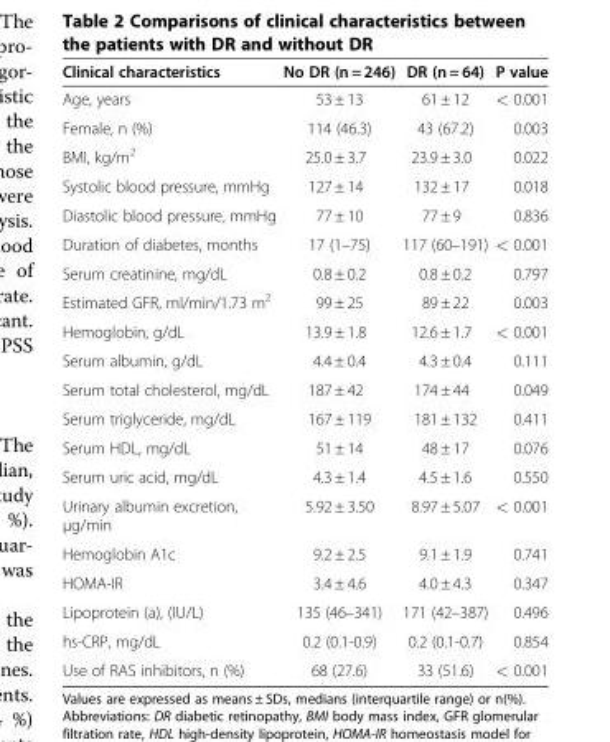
<table><thead><tr><td>Clinical characteristics</td><td>No DR (n = 246)</td><td>DR (n = 64)</td><td>P value</td></tr></thead><tbody><tr><td>Age, years</td><td>53 ± 13</td><td>61 ± 12</td><td>&lt; 0.001</td></tr><tr><td>Female, n (%)</td><td>114 (46.3)</td><td>43 (67.2)</td><td>0.003</td></tr><tr><td>BMI, kg/m<sup>2</sup></td><td>25.0 ± 3.7</td><td>23.9 ± 3.0</td><td>0.022</td></tr><tr><td>Systolic blood pressure, mmHg</td><td>127 ± 14</td><td>132 ± 17</td><td>0.018</td></tr><tr><td>Diastolic blood pressure, mmHg</td><td>77 ± 10</td><td>77 ± 9</td><td>0.836</td></tr><tr><td>Duration of diabetes, months</td><td>17 (1–75)</td><td>117 (60–191)</td><td>&lt; 0.001</td></tr><tr><td>Serum creatinine, mg/dL</td><td>0.8 ± 0.2</td><td>0.8 ± 0.2</td><td>0.797</td></tr><tr><td>Estimated GFR, ml/min/1.73 m<sup>2</sup></td><td>99 ± 25</td><td>89 ± 22</td><td>0.003</td></tr><tr><td>Hemoglobin, g/dL</td><td>13.9 ± 1.8</td><td>12.6 ± 1.7</td><td>&lt; 0.001</td></tr><tr><td>Serum albumin, g/dL</td><td>4.4 ± 0.4</td><td>4.3 ± 0.4</td><td>0.111</td></tr><tr><td>Serum total cholesterol, mg/dL</td><td>187 ± 42</td><td>174 ± 44</td><td>0.049</td></tr><tr><td>Serum triglyceride, mg/dL</td><td>167 ± 119</td><td>181 ± 132</td><td>0.411</td></tr><tr><td>Serum HDL, mg/dL</td><td>51 ± 14</td><td>48 ± 17</td><td>0.076</td></tr><tr><td>Serum uric acid, mg/dL</td><td>4.3 ± 1.4</td><td>4.5 ± 1.6</td><td>0.550</td></tr><tr><td>Urinary albumin excretion, μg/min</td><td>5.92 ± 3.50</td><td>8.97 ± 5.07</td><td>&lt; 0.001</td></tr><tr><td>Hemoglobin A1c</td><td>9.2 ± 2.5</td><td>9.1 ± 1.9</td><td>0.741</td></tr><tr><td>HOMA-IR</td><td>3.4 ± 4.6</td><td>4.0 ± 4.3</td><td>0.347</td></tr><tr><td>Lipoprotein (a), (IU/L)</td><td>135 (46–341)</td><td>171 (42–387)</td><td>0.496</td></tr><tr><td>hs-CRP, mg/dL</td><td>0.2 (0.1-0.9)</td><td>0.2 (0.1-0.7)</td><td>0.854</td></tr><tr><td>Use of RAS inhibitors, n (%)</td><td>68 (27.6)</td><td>33 (51.6)</td><td>&lt; 0.001</td></tr></tbody></table>